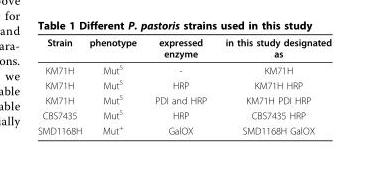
<table><thead><tr><td>Strain</td><td>phenotype</td><td>expressed enzyme</td><td>in this study designated as</td></tr></thead><tbody><tr><td>KM71H</td><td>Mut<sup>S</sup></td><td>-</td><td>KM71H</td></tr><tr><td>KM71H</td><td>Mut<sup>S</sup></td><td>HRP</td><td>KM71H HRP</td></tr><tr><td>KM71H</td><td>Mut<sup>S</sup></td><td>PDI and HRP</td><td>KM71H PDI HRP</td></tr><tr><td>CBS7435</td><td>Mut<sup>S</sup></td><td>HRP</td><td>CBS7435 HRP</td></tr><tr><td>SMD1168H</td><td>Mut<sup>+</sup></td><td>GalOX</td><td>SMD1168H GalOX</td></tr></tbody></table>